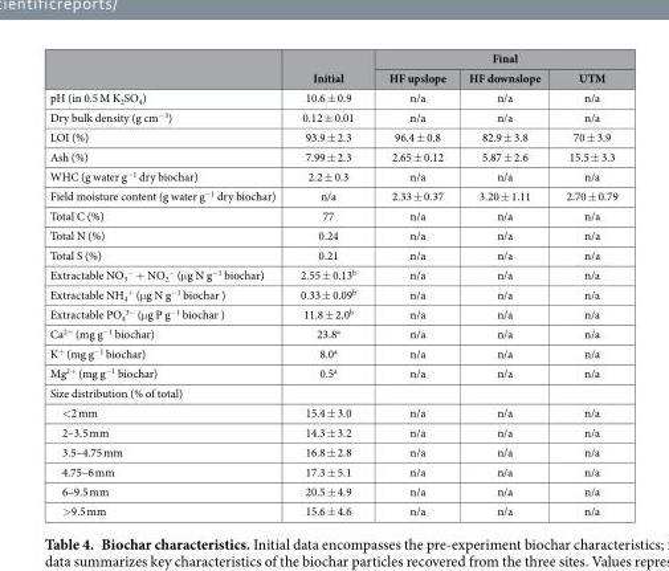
<table><thead><tr><td rowspan="2"></td><td rowspan="2">Initial</td><td colspan="3">Final</td></tr><tr><td>HF upslope</td><td>HF downslope</td><td>UTM</td></tr></thead><tbody><tr><td>pH (in 0.5 M K<sub>2</sub>SO<sub>4</sub>)</td><td>10.6 ± 0.9</td><td>n/a</td><td>n/a</td><td>n/a</td></tr><tr><td>Dry bulk density (g cm<sup>−3</sup>)</td><td>0.12 ± 0.01</td><td>n/a</td><td>n/a</td><td>n/a</td></tr><tr><td>LOI (%)</td><td>93.9 ± 2.3</td><td>96.4 ± 0.8</td><td>82.9 ± 3.8</td><td>70 ± 3.9</td></tr><tr><td>Ash (%)</td><td>7.99 ± 2.3</td><td>2.65 ± 0.12</td><td>5.87 ± 2.6</td><td>15.5 ± 3.3</td></tr><tr><td>WHC (g water g<sup>−1</sup> dry biochar)</td><td>2.2 ± 0.3</td><td>n/a</td><td>n/a</td><td>n/a</td></tr><tr><td>Field moisture content (g water g<sup>−1</sup> dry biochar)</td><td>n/a</td><td>2.33 ± 0.37</td><td>3.20 ± 1.11</td><td>2.70 ± 0.79</td></tr><tr><td>Total C (%)</td><td>77</td><td>n/a</td><td>n/a</td><td>n/a</td></tr><tr><td>Total N (%)</td><td>0.24</td><td>n/a</td><td>n/a</td><td>n/a</td></tr><tr><td>Total S (%)</td><td>0.21</td><td>n/a</td><td>n/a</td><td>n/a</td></tr><tr><td>Extractable NO<sub>3</sub> <sup>−</sup> + NO<sub>2</sub> <sup>−</sup> (μ g N g<sup>−1</sup> biochar)</td><td>2.55 ± 0.13<sup>b</sup></td><td>n/a</td><td>n/a</td><td>n/a</td></tr><tr><td>Extractable NH<sub>4</sub> <sup>+</sup> (μ g N g<sup>−1</sup> biochar )</td><td>0.33 ± 0.09<sup>b</sup></td><td>n/a</td><td>n/a</td><td>n/a</td></tr><tr><td>Extractable PO<sub>4</sub> <sup>3−</sup> (μ g P g<sup>−1</sup> biochar )</td><td>11.8 ± 2.0<sup>b</sup></td><td>n/a</td><td>n/a</td><td>n/a</td></tr><tr><td>Ca<sup>2+</sup> (mg g<sup>−1</sup> biochar)</td><td>23.8<sup>a</sup></td><td>n/a</td><td>n/a</td><td>n/a</td></tr><tr><td>K<sup>+</sup> (mg g<sup>−1</sup> biochar)</td><td>8.0<sup>a</sup></td><td>n/a</td><td>n/a</td><td>n/a</td></tr><tr><td>Mg<sup>2+</sup> (mg g<sup>−1</sup> biochar)</td><td>0.5<sup>a</sup></td><td>n/a</td><td>n/a</td><td>n/a</td></tr><tr><td colspan="5">Size distribution (% of total)</td></tr><tr><td>&lt; 2 mm</td><td>15.4 ± 3.0</td><td>n/a</td><td>n/a</td><td>n/a</td></tr><tr><td>2–3.5 mm</td><td>14.3 ± 3.2</td><td>n/a</td><td>n/a</td><td>n/a</td></tr><tr><td>3.5–4.75 mm</td><td>16.8 ± 2.8</td><td>n/a</td><td>n/a</td><td>n/a</td></tr><tr><td>4.75–6 mm</td><td>17.3 ± 5.1</td><td>n/a</td><td>n/a</td><td>n/a</td></tr><tr><td>6–9.5 mm</td><td>20.5 ± 4.9</td><td>n/a</td><td>n/a</td><td>n/a</td></tr><tr><td>&gt; 9.5 mm</td><td>15.6 ± 4.6</td><td>n/a</td><td>n/a</td><td>n/a</td></tr></tbody></table>